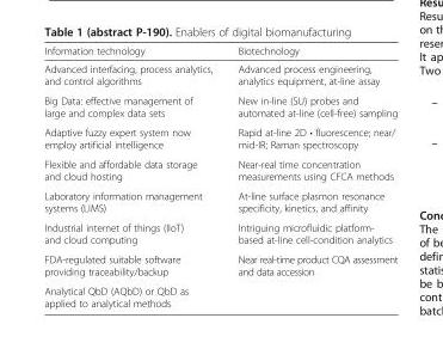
<table><thead><tr><td>Information technology</td><td>Biotechnology</td></tr></thead><tbody><tr><td>Advanced interfacing, process analytics, and control algorithms</td><td>Advanced process engineering, analytics equipment, at-line assay</td></tr><tr><td>Big Data: effective management of large and complex data sets</td><td>New in-line (SU) probes and automated at-line (cell-free) sampling</td></tr><tr><td>Adaptive fuzzy expert system now employ artificial intelligence</td><td>Rapid at-line 2D • fluorescence; near/ mid-IR; Raman spectroscopy</td></tr><tr><td>Flexible and affordable data storage and cloud hosting</td><td>Near-real time concentration measurements using CFCA methods</td></tr><tr><td>Laboratory information management systems (LIMS)</td><td>At-line surface plasmon resonance specificity, kinetics, and affinity</td></tr><tr><td>Industrial internet of things (IIoT) and cloud computing</td><td>Intriguing microfluidic platform- based at-line cell-condition analytics</td></tr><tr><td>FDA-regulated suitable software providing traceability/backup</td><td>Near real-time product CQA assessment and data accession</td></tr><tr><td>Analytical QbD (AQbD) or QbD as applied to analytical methods</td><td></td></tr></tbody></table>